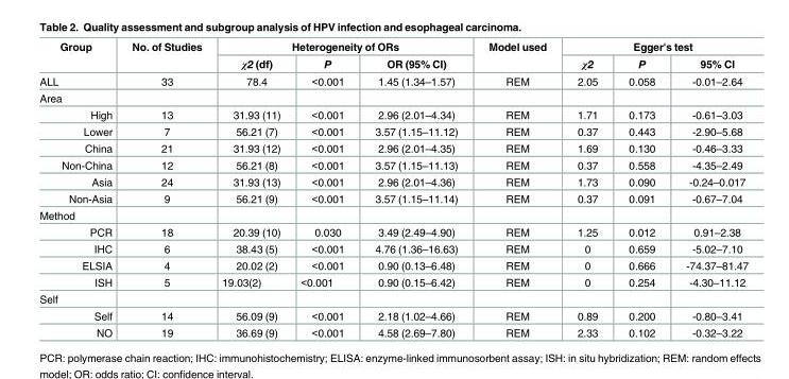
<table><thead><tr><td rowspan="2">Group</td><td rowspan="2">No. of Studies</td><td colspan="3">Heterogeneity of ORs</td><td rowspan="2">Model used</td><td colspan="3">Egger&#x27;s test</td></tr><tr><td>χ2 (df)</td><td>P</td><td>OR (95% CI)</td><td>χ2</td><td>P</td><td>95% CI</td></tr></thead><tbody><tr><td>ALL</td><td>33</td><td>78.4</td><td>&lt;0.001</td><td>1.45 (1.34–1.57)</td><td>REM</td><td>2.05</td><td>0.058</td><td>-0.01–2.64</td></tr><tr><td colspan="9">Area</td></tr><tr><td>High</td><td>13</td><td>31.93 (11)</td><td>&lt;0.001</td><td>2.96 (2.01–4.34)</td><td>REM</td><td>1.71</td><td>0.173</td><td>-0.61–3.03</td></tr><tr><td>Lower</td><td>7</td><td>56.21 (7)</td><td>&lt;0.001</td><td>3.57 (1.15–11.12)</td><td>REM</td><td>0.37</td><td>0.443</td><td>-2.90–5.68</td></tr><tr><td>China</td><td>21</td><td>31.93 (12)</td><td>&lt;0.001</td><td>2.96 (2.01–4.35)</td><td>REM</td><td>1.69</td><td>0.130</td><td>-0.46–3.33</td></tr><tr><td>Non-China</td><td>12</td><td>56.21 (8)</td><td>&lt;0.001</td><td>3.57 (1.15–11.13)</td><td>REM</td><td>0.37</td><td>0.558</td><td>-4.35–2.49</td></tr><tr><td>Asia</td><td>24</td><td>31.93 (13)</td><td>&lt;0.001</td><td>2.96 (2.01–4.36)</td><td>REM</td><td>1.73</td><td>0.090</td><td>-0.24–0.017</td></tr><tr><td>Non-Asia</td><td>9</td><td>56.21 (9)</td><td>&lt;0.001</td><td>3.57 (1.15–11.14)</td><td>REM</td><td>0.37</td><td>0.091</td><td>-0.67–7.04</td></tr><tr><td colspan="9">Method</td></tr><tr><td>PCR</td><td>18</td><td>20.39 (10)</td><td>0.030</td><td>3.49 (2.49–4.90)</td><td>REM</td><td>1.25</td><td>0.012</td><td>0.91–2.38</td></tr><tr><td>IHC</td><td>6</td><td>38.43 (5)</td><td>&lt;0.001</td><td>4.76 (1.36–16.63)</td><td>REM</td><td>0</td><td>0.659</td><td>-5.02–7.10</td></tr><tr><td>ELSIA</td><td>4</td><td>20.02 (2)</td><td>&lt;0.001</td><td>0.90 (0.13–6.48)</td><td>REM</td><td>0</td><td>0.666</td><td>-74.37–81.47</td></tr><tr><td>ISH</td><td>5</td><td>19.03(2)</td><td>&lt;0.001</td><td>0.90 (0.15–6.42)</td><td>REM</td><td>0</td><td>0.254</td><td>-4.30–11.12</td></tr><tr><td colspan="9">Self</td></tr><tr><td>Self</td><td>14</td><td>56.09 (9)</td><td>&lt;0.001</td><td>2.18 (1.02–4.66)</td><td>REM</td><td>0.89</td><td>0.200</td><td>-0.80–3.41</td></tr><tr><td>NO</td><td>19</td><td>36.69 (9)</td><td>&lt;0.001</td><td>4.58 (2.69–7.80)</td><td>REM</td><td>2.33</td><td>0.102</td><td>-0.32–3.22</td></tr></tbody></table>